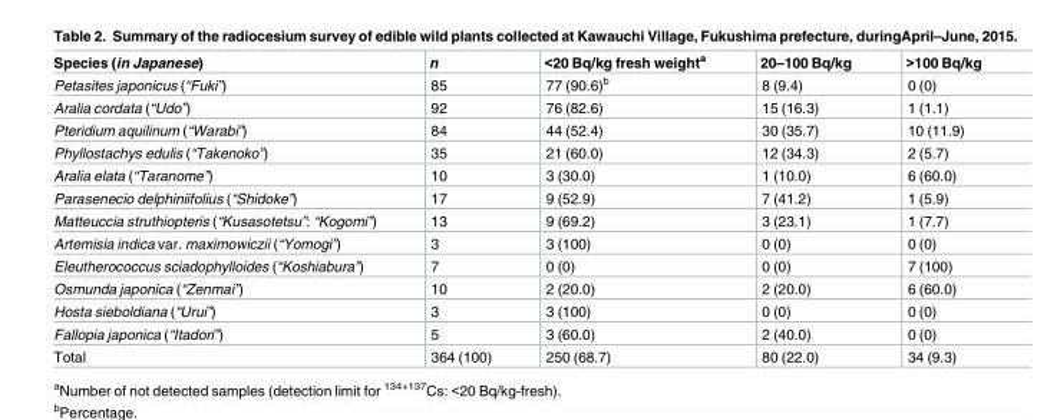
<table><thead><tr><td>Species (in Japanese)</td><td>n</td><td>&lt;20 Bq/kg fresh weight<sup>a</sup></td><td>20–100 Bq/kg</td><td>&gt;100 Bq/kg</td></tr></thead><tbody><tr><td>Petasites japonicus (“Fuki”)</td><td>85</td><td>77 (90.6)<sup>b</sup></td><td>8 (9.4)</td><td>0 (0)</td></tr><tr><td>Aralia cordata (“Udo”)</td><td>92</td><td>76 (82.6)</td><td>15 (16.3)</td><td>1 (1.1)</td></tr><tr><td>Pteridium aquilinum (“Warabi”)</td><td>84</td><td>44 (52.4)</td><td>30 (35.7)</td><td>10 (11.9)</td></tr><tr><td>Phyllostachys edulis (“Takenoko”)</td><td>35</td><td>21 (60.0)</td><td>12 (34.3)</td><td>2 (5.7)</td></tr><tr><td>Aralia elata (“Taranome”)</td><td>10</td><td>3 (30.0)</td><td>1 (10.0)</td><td>6 (60.0)</td></tr><tr><td>Parasenecio delphiniifolius (“Shidoke”)</td><td>17</td><td>9 (52.9)</td><td>7 (41.2)</td><td>1 (5.9)</td></tr><tr><td>Matteuccia struthiopteris (“Kusasotetsu”: “Kogomi”)</td><td>13</td><td>9 (69.2)</td><td>3 (23.1)</td><td>1 (7.7)</td></tr><tr><td>Artemisia indica var. maximowiczii (“Yomogi”)</td><td>3</td><td>3 (100)</td><td>0 (0)</td><td>0 (0)</td></tr><tr><td>Eleutherococcus sciadophylloides (“Koshiabura”)</td><td>7</td><td>0 (0)</td><td>0 (0)</td><td>7 (100)</td></tr><tr><td>Osmunda japonica (“Zenmai”)</td><td>10</td><td>2 (20.0)</td><td>2 (20.0)</td><td>6 (60.0)</td></tr><tr><td>Hosta sieboldiana (“Urui”)</td><td>3</td><td>3 (100)</td><td>0 (0)</td><td>0 (0)</td></tr><tr><td>Fallopia japonica (“Itadori”)</td><td>5</td><td>3 (60.0)</td><td>2 (40.0)</td><td>0 (0)</td></tr><tr><td>Total</td><td>364 (100)</td><td>250 (68.7)</td><td>80 (22.0)</td><td>34 (9.3)</td></tr></tbody></table>